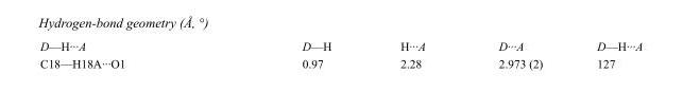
<table><tbody><tr><td>D—H···A</td><td>D—H</td><td>H···A</td><td>D···A</td><td>D—H···A</td></tr><tr><td>C18—H18A···O1</td><td>0.97</td><td>2.28</td><td>2.973 (2)</td><td>127</td></tr></tbody></table>